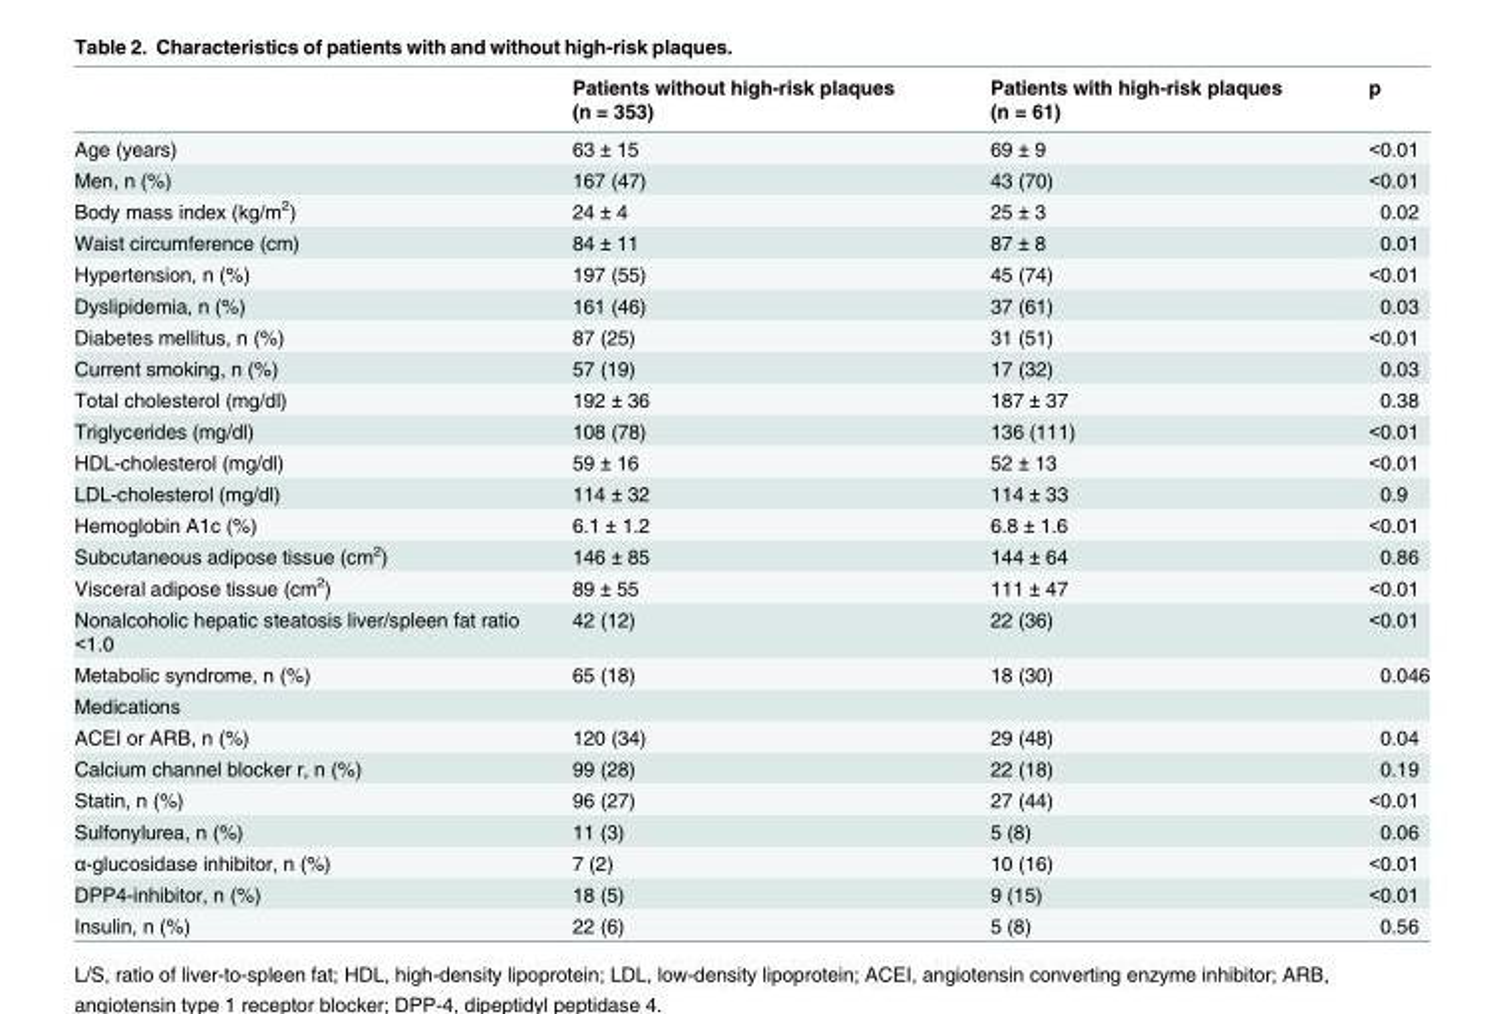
<table><thead><tr><td></td><td>Patients without high-risk plaques (n = 353)</td><td>Patients with high-risk plaques (n = 61)</td><td>p</td></tr></thead><tbody><tr><td>Age (years)</td><td>63 ± 15</td><td>69 ± 9</td><td>&lt;0.01</td></tr><tr><td>Men, n (%)</td><td>167 (47)</td><td>43 (70)</td><td>&lt;0.01</td></tr><tr><td>Body mass index (kg/m<sup>2</sup>)</td><td>24 ± 4</td><td>25 ± 3</td><td>0.02</td></tr><tr><td>Waist circumference (cm)</td><td>84 ± 11</td><td>87 ± 8</td><td>0.01</td></tr><tr><td>Hypertension, n (%)</td><td>197 (55)</td><td>45 (74)</td><td>&lt;0.01</td></tr><tr><td>Dyslipidemia, n (%)</td><td>161 (46)</td><td>37 (61)</td><td>0.03</td></tr><tr><td>Diabetes mellitus, n (%)</td><td>87 (25)</td><td>31 (51)</td><td>&lt;0.01</td></tr><tr><td>Current smoking, n (%)</td><td>57 (19)</td><td>17 (32)</td><td>0.03</td></tr><tr><td>Total cholesterol (mg/dl)</td><td>192 ± 36</td><td>187 ± 37</td><td>0.38</td></tr><tr><td>Triglycerides (mg/dl)</td><td>108 (78)</td><td>136 (111)</td><td>&lt;0.01</td></tr><tr><td>HDL-cholesterol (mg/dl)</td><td>59 ± 16</td><td>52 ± 13</td><td>&lt;0.01</td></tr><tr><td>LDL-cholesterol (mg/dl)</td><td>114 ± 32</td><td>114 ± 33</td><td>0.9</td></tr><tr><td>Hemoglobin A1c (%)</td><td>6.1 ± 1.2</td><td>6.8 ± 1.6</td><td>&lt;0.01</td></tr><tr><td>Subcutaneous adipose tissue (cm<sup>2</sup>)</td><td>146 ± 85</td><td>144 ± 64</td><td>0.86</td></tr><tr><td>Visceral adipose tissue (cm<sup>2</sup>)</td><td>89 ± 55</td><td>111 ± 47</td><td>&lt;0.01</td></tr><tr><td>Nonalcoholic hepatic steatosis liver/spleen fat ratio &lt;1.0</td><td>42 (12)</td><td>22 (36)</td><td>&lt;0.01</td></tr><tr><td>Metabolic syndrome, n (%)</td><td>65 (18)</td><td>18 (30)</td><td>0.046</td></tr><tr><td colspan="4">Medications</td></tr><tr><td>ACEI or ARB, n (%)</td><td>120 (34)</td><td>29 (48)</td><td>0.04</td></tr><tr><td>Calcium channel blocker r, n (%)</td><td>99 (28)</td><td>22 (18)</td><td>0.19</td></tr><tr><td>Statin, n (%)</td><td>96 (27)</td><td>27 (44)</td><td>&lt;0.01</td></tr><tr><td>Sulfonylurea, n (%)</td><td>11 (3)</td><td>5 (8)</td><td>0.06</td></tr><tr><td>α-glucosidase inhibitor, n (%)</td><td>7 (2)</td><td>10 (16)</td><td>&lt;0.01</td></tr><tr><td>DPP4-inhibitor, n (%)</td><td>18 (5)</td><td>9 (15)</td><td>&lt;0.01</td></tr><tr><td>Insulin, n (%)</td><td>22 (6)</td><td>5 (8)</td><td>0.56</td></tr></tbody></table>